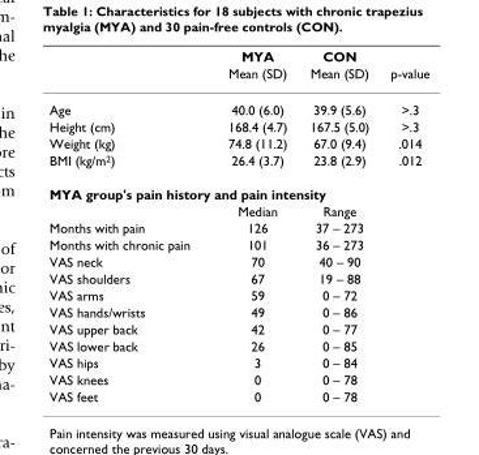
<table><thead><tr><td rowspan="2"></td><td rowspan="2">MYA Mean (SD)</td><td rowspan="2">CON Mean (SD)</td><td rowspan="2">p-value</td></tr><tr></tr></thead><tbody><tr><td>Age</td><td>40.0 (6.0)</td><td>39.9 (5.6)</td><td>&gt;.3</td></tr><tr><td>Height (cm)</td><td>168.4 (4.7)</td><td>167.5 (5.0)</td><td>&gt;.3</td></tr><tr><td>Weight (kg)</td><td>74.8 (11.2)</td><td>67.0 (9.4)</td><td>.014</td></tr><tr><td>BMI (kg/m<sup>2</sup>)</td><td>26.4 (3.7)</td><td>23.8 (2.9)</td><td>.012</td></tr><tr><td colspan="4">MYA group&#x27;s pain history and pain intensity</td></tr><tr><td></td><td>Median</td><td>Range</td><td></td></tr><tr><td>Months with pain</td><td>126</td><td>37 – 273</td><td></td></tr><tr><td>Months with chronic pain</td><td>101</td><td>36 – 273</td><td></td></tr><tr><td>VAS neck</td><td>70</td><td>40 – 90</td><td></td></tr><tr><td>VAS shoulders</td><td>67</td><td>19 – 88</td><td></td></tr><tr><td>VAS arms</td><td>59</td><td>0 – 72</td><td></td></tr><tr><td>VAS hands/wrists</td><td>49</td><td>0 – 86</td><td></td></tr><tr><td>VAS upper back</td><td>42</td><td>0 – 77</td><td></td></tr><tr><td>VAS lower back</td><td>26</td><td>0 – 85</td><td></td></tr><tr><td>VAS hips</td><td>3</td><td>0 – 84</td><td></td></tr><tr><td>VAS knees</td><td>0</td><td>0 – 78</td><td></td></tr><tr><td>VAS feet</td><td>0</td><td>0 – 78</td><td></td></tr></tbody></table>